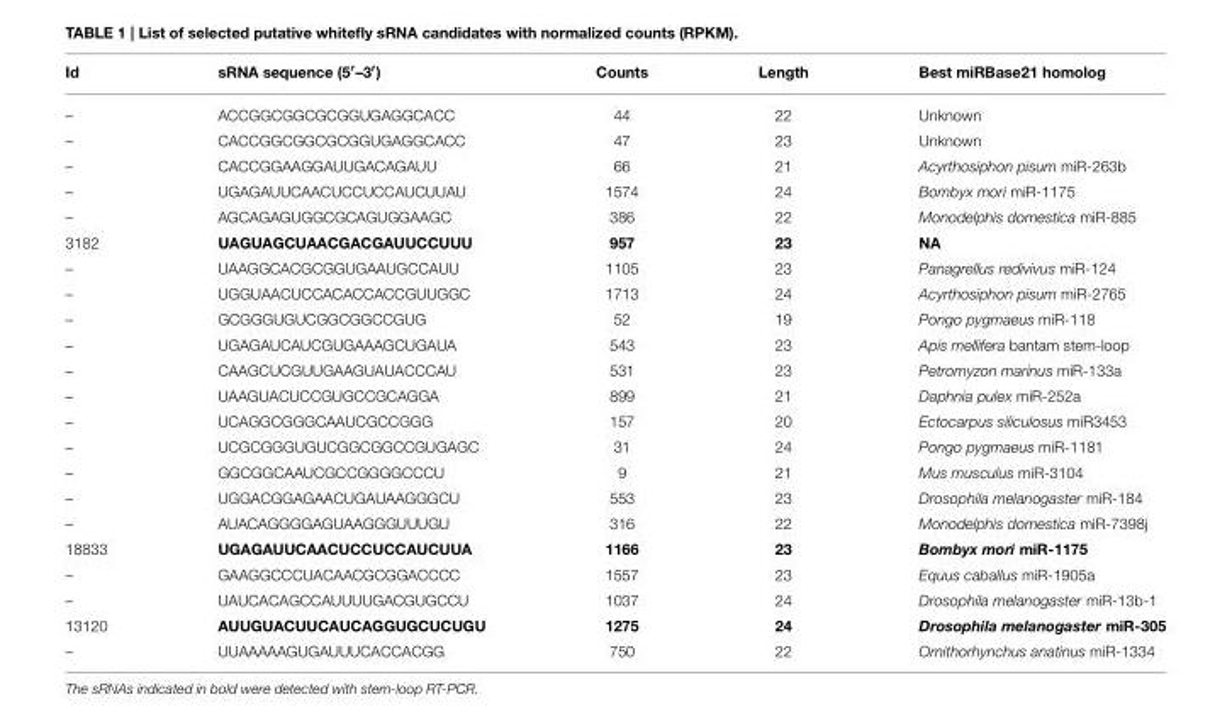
<table><thead><tr><td>Id</td><td>sRNA sequence (5′–3′)</td><td>Counts</td><td>Length</td><td>Best miRBase21 homolog</td></tr></thead><tbody><tr><td>–</td><td>ACCGGCGGCGCGGUGAGGCACC</td><td>44</td><td>22</td><td>Unknown</td></tr><tr><td>–</td><td>CACCGGCGGCGCGGUGAGGCACC</td><td>47</td><td>23</td><td>Unknown</td></tr><tr><td>–</td><td>CACCGGAAGGAUUGACAGAUU</td><td>66</td><td>21</td><td>Acyrthosiphon pisum miR-263b</td></tr><tr><td>–</td><td>UGAGAUUCAACUCCUCCAUCUUAU</td><td>1574</td><td>24</td><td>Bombyx mori miR-1175</td></tr><tr><td>–</td><td>AGCAGAGUGGCGCAGUGGAAGC</td><td>386</td><td>22</td><td>Monodelphis domestica miR-885</td></tr><tr><td>3182</td><td>UAGUAGCUAACGACGAUUCCUUU</td><td>957</td><td>23</td><td>NA</td></tr><tr><td>–</td><td>UAAGGCACGCGGUGAAUGCCAUU</td><td>1105</td><td>23</td><td>Panagrellus redivivus miR-124</td></tr><tr><td>–</td><td>UGGUAACUCCACACCACCGUUGGC</td><td>1713</td><td>24</td><td>Acyrthosiphon pisum miR-2765</td></tr><tr><td>–</td><td>GCGGGUGUCGGCGGCCGUG</td><td>52</td><td>19</td><td>Pongo pygmaeus miR-118</td></tr><tr><td>–</td><td>UGAGAUCAUCGUGAAAGCUGAUA</td><td>543</td><td>23</td><td>Apis mellifera bantam stem-loop</td></tr><tr><td>–</td><td>CAAGCUCGUUGAAGUAUACCCAU</td><td>531</td><td>23</td><td>Petromyzon marinus miR-133a</td></tr><tr><td>–</td><td>UAAGUACUCCGUGCCGCAGGA</td><td>899</td><td>21</td><td>Daphnia pulex miR-252a</td></tr><tr><td>–</td><td>UCAGGCGGGCAAUCGCCGGG</td><td>157</td><td>20</td><td>Ectocarpus siliculosus miR3453</td></tr><tr><td>–</td><td>UCGCGGGUGUCGGCGGCCGUGAGC</td><td>31</td><td>24</td><td>Pongo pygmaeus miR-1181</td></tr><tr><td>–</td><td>GGCGGCAAUCGCCGGGGCCCU</td><td>9</td><td>21</td><td>Mus musculus miR-3104</td></tr><tr><td>–</td><td>UGGACGGAGAACUGAUAAGGGCU</td><td>553</td><td>23</td><td>Drosophila melanogaster miR-184</td></tr><tr><td>–</td><td>AUACAGGGGAGUAAGGGUUUGU</td><td>316</td><td>22</td><td>Monodelphis domestica miR-7398j</td></tr><tr><td>18833</td><td>UGAGAUUCAACUCCUCCAUCUUA</td><td>1166</td><td>23</td><td>Bombyx mori miR-1175</td></tr><tr><td>–</td><td>GAAGGCCCUACAACGCGGACCCC</td><td>1557</td><td>23</td><td>Equus caballus miR-1905a</td></tr><tr><td>–</td><td>UAUCACAGCCAUUUUGACGUGCCU</td><td>1037</td><td>24</td><td>Drosophila melanogaster miR-13b-1</td></tr><tr><td>13120</td><td>AUUGUACUUCAUCAGGUGCUCUGU</td><td>1275</td><td>24</td><td>Drosophila melanogaster miR-305</td></tr><tr><td>–</td><td>UUAAAAAGUGAUUUCACCACGG</td><td>750</td><td>22</td><td>Ornithorhynchus anatinus miR-1334</td></tr></tbody></table>